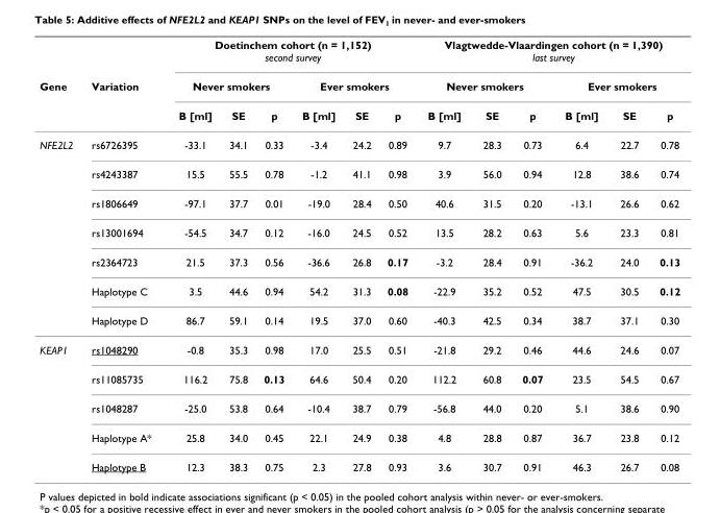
<table><thead><tr><td rowspan="3">Gene</td><td rowspan="3">Variation</td><td colspan="6">Doetinchem cohort (n = 1,152) second survey</td><td colspan="6">Vlagtwedde-Vlaardingen cohort (n = 1,390) last survey</td></tr><tr><td colspan="3">Never smokers</td><td colspan="3">Ever smokers</td><td colspan="3">Never smokers</td><td colspan="3">Ever smokers</td></tr><tr><td>B [ml]</td><td>SE</td><td>p</td><td>B [ml]</td><td>SE</td><td>p</td><td>B [ml]</td><td>SE</td><td>p</td><td>B [ml]</td><td>SE</td><td>p</td></tr></thead><tbody><tr><td rowspan="7">NFE2L2</td><td>rs6726395</td><td>-33.1</td><td>34.1</td><td>0.33</td><td>-3.4</td><td>24.2</td><td>0.89</td><td>9.7</td><td>28.3</td><td>0.73</td><td>6.4</td><td>22.7</td><td>0.78</td></tr><tr><td>rs4243387</td><td>15.5</td><td>55.5</td><td>0.78</td><td>-1.2</td><td>41.1</td><td>0.98</td><td>3.9</td><td>56.0</td><td>0.94</td><td>12.8</td><td>38.6</td><td>0.74</td></tr><tr><td>rs1806649</td><td>-97.1</td><td>37.7</td><td>0.01</td><td>-19.0</td><td>28.4</td><td>0.50</td><td>40.6</td><td>31.5</td><td>0.20</td><td>-13.1</td><td>26.6</td><td>0.62</td></tr><tr><td>rs13001694</td><td>-54.5</td><td>34.7</td><td>0.12</td><td>-16.0</td><td>24.5</td><td>0.52</td><td>13.5</td><td>28.2</td><td>0.63</td><td>5.6</td><td>23.3</td><td>0.81</td></tr><tr><td>rs2364723</td><td>21.5</td><td>37.3</td><td>0.56</td><td>-36.6</td><td>26.8</td><td>0.17</td><td>-3.2</td><td>28.4</td><td>0.91</td><td>-36.2</td><td>24.0</td><td>0.13</td></tr><tr><td>Haplotype C</td><td>3.5</td><td>44.6</td><td>0.94</td><td>54.2</td><td>31.3</td><td>0.08</td><td>-22.9</td><td>35.2</td><td>0.52</td><td>47.5</td><td>30.5</td><td>0.12</td></tr><tr><td>Haplotype D</td><td>86.7</td><td>59.1</td><td>0.14</td><td>19.5</td><td>37.0</td><td>0.60</td><td>-40.3</td><td>42.5</td><td>0.34</td><td>38.7</td><td>37.1</td><td>0.30</td></tr><tr><td rowspan="5">KEAP1</td><td>rs1048290</td><td>-0.8</td><td>35.3</td><td>0.98</td><td>17.0</td><td>25.5</td><td>0.51</td><td>-21.8</td><td>29.2</td><td>0.46</td><td>44.6</td><td>24.6</td><td>0.07</td></tr><tr><td>rs11085735</td><td>116.2</td><td>75.8</td><td>0.13</td><td>64.6</td><td>50.4</td><td>0.20</td><td>112.2</td><td>60.8</td><td>0.07</td><td>23.5</td><td>54.5</td><td>0.67</td></tr><tr><td>rs1048287</td><td>-25.0</td><td>53.8</td><td>0.64</td><td>-10.4</td><td>38.7</td><td>0.79</td><td>-56.8</td><td>44.0</td><td>0.20</td><td>5.1</td><td>38.6</td><td>0.90</td></tr><tr><td>Haplotype A*</td><td>25.8</td><td>34.0</td><td>0.45</td><td>22.1</td><td>24.9</td><td>0.38</td><td>4.8</td><td>28.8</td><td>0.87</td><td>36.7</td><td>23.8</td><td>0.12</td></tr><tr><td>Haplotype B</td><td>12.3</td><td>38.3</td><td>0.75</td><td>2.3</td><td>27.8</td><td>0.93</td><td>3.6</td><td>30.7</td><td>0.91</td><td>46.3</td><td>26.7</td><td>0.08</td></tr></tbody></table>